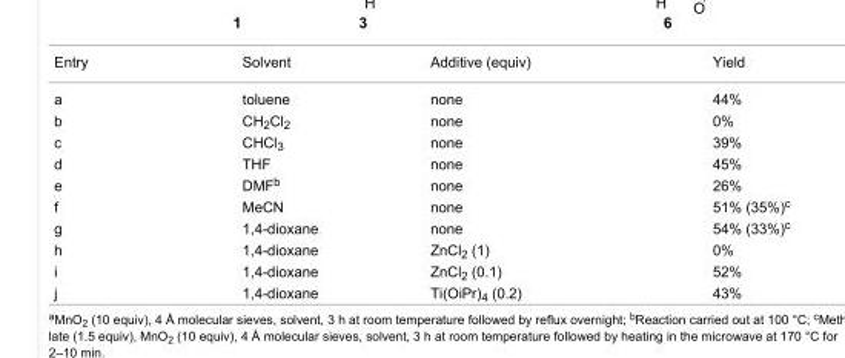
<table><tbody><tr><td>Entry</td><td>Solvent</td><td>Additive (equiv)</td><td>Yield</td></tr><tr><td>a</td><td>toluene</td><td>none</td><td>44%</td></tr><tr><td>b</td><td>CH<sub>2</sub>Cl<sub>2</sub></td><td>none</td><td>0%</td></tr><tr><td>c</td><td>CHCl<sub>3</sub></td><td>none</td><td>39%</td></tr><tr><td>d</td><td>THF</td><td>none</td><td>45%</td></tr><tr><td>e</td><td>DMF<sup>b</sup></td><td>none</td><td>26%</td></tr><tr><td>f</td><td>MeCN</td><td>none</td><td>51% (35%)<sup>c</sup></td></tr><tr><td>g</td><td>1,4-dioxane</td><td>none</td><td>54% (33%)<sup>c</sup></td></tr><tr><td>h</td><td>1,4-dioxane</td><td>ZnCl<sub>2</sub> (1)</td><td>0%</td></tr><tr><td>i</td><td>1,4-dioxane</td><td>ZnCl<sub>2</sub> (0.1)</td><td>52%</td></tr><tr><td>j</td><td>1,4-dioxane</td><td>Ti(OiPr)<sub>4</sub> (0.2)</td><td>43%</td></tr></tbody></table>